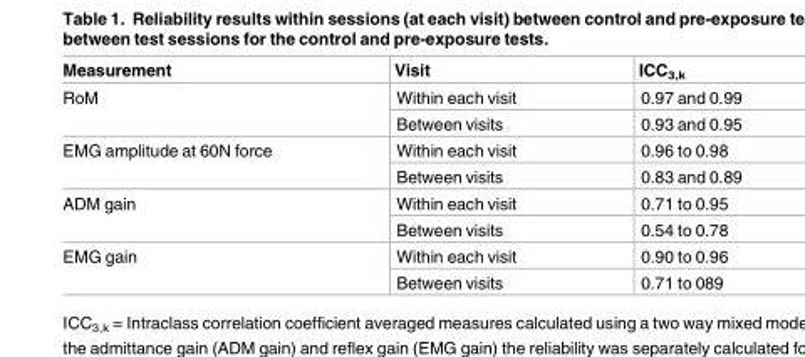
<table><thead><tr><td>Measurement</td><td>Visit</td><td>ICC<sub>3,k</sub></td></tr></thead><tbody><tr><td rowspan="2">RoM</td><td>Within each visit</td><td>0.97 and 0.99</td></tr><tr><td>Between visits</td><td>0.93 and 0.95</td></tr><tr><td rowspan="2">EMG amplitude at 60N force</td><td>Within each visit</td><td>0.96 to 0.98</td></tr><tr><td>Between visits</td><td>0.83 and 0.89</td></tr><tr><td rowspan="2">ADM gain</td><td>Within each visit</td><td>0.71 to 0.95</td></tr><tr><td>Between visits</td><td>0.54 to 0.78</td></tr><tr><td rowspan="2">EMG gain</td><td>Within each visit</td><td>0.90 to 0.96</td></tr><tr><td>Between visits</td><td>0.71 to 089</td></tr></tbody></table>